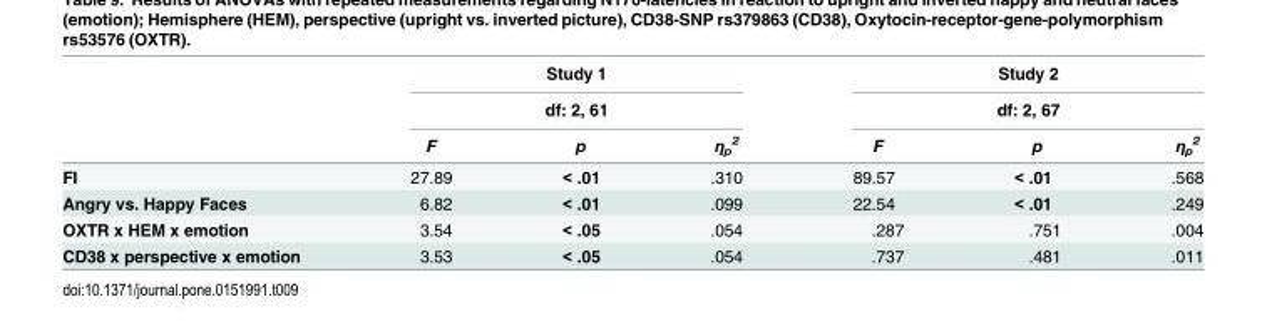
<table><thead><tr><td rowspan="3"></td><td rowspan="2" colspan="3">Study 1 df: 2, 61</td><td rowspan="2" colspan="3">Study 2 df: 2, 67</td></tr><tr></tr><tr><td>F</td><td>p</td><td>η<sub>p</sub> <sup>2</sup></td><td>F</td><td>p</td><td>η<sub>p</sub> <sup>2</sup></td></tr></thead><tbody><tr><td>FI</td><td>27.89</td><td>&lt; .01</td><td>.310</td><td>89.57</td><td>&lt; .01</td><td>.568</td></tr><tr><td>Angry vs. Happy Faces</td><td>6.82</td><td>&lt; .01</td><td>.099</td><td>22.54</td><td>&lt; .01</td><td>.249</td></tr><tr><td>OXTR x HEM x emotion</td><td>3.54</td><td>&lt; .05</td><td>.054</td><td>.287</td><td>.751</td><td>.004</td></tr><tr><td>CD38 x perspective x emotion</td><td>3.53</td><td>&lt; .05</td><td>.054</td><td>.737</td><td>.481</td><td>.011</td></tr></tbody></table>